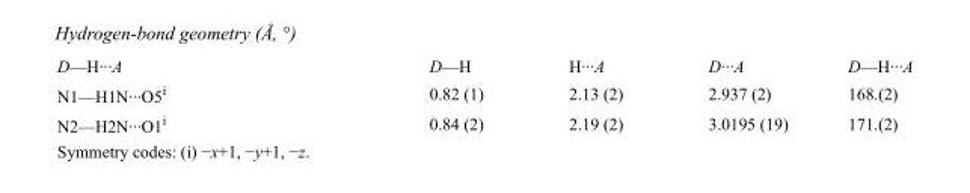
<table><tbody><tr><td>D—H···A</td><td>D—H</td><td>H···A</td><td>D···A</td><td>D—H···A</td></tr><tr><td>N1—H1N···O5<sup>i</sup></td><td>0.82 (1)</td><td>2.13 (2)</td><td>2.937 (2)</td><td>168.(2)</td></tr><tr><td>N2—H2N···O1<sup>i</sup></td><td>0.84 (2)</td><td>2.19 (2)</td><td>3.0195 (19)</td><td>171.(2)</td></tr></tbody></table>